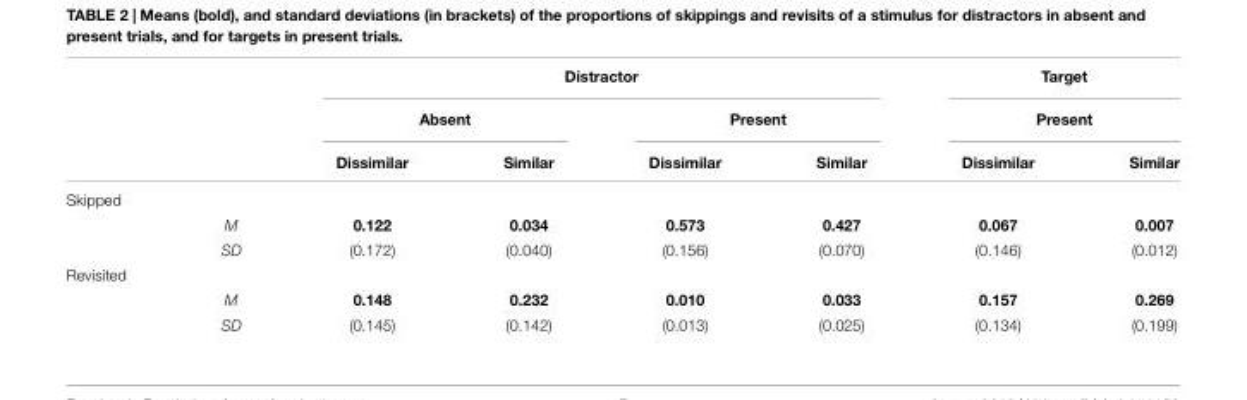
<table><thead><tr><td rowspan="3"></td><td rowspan="3"></td><td colspan="4">Distractor</td><td rowspan="2" colspan="2">Target Present</td></tr><tr><td colspan="2">Absent</td><td colspan="2">Present</td></tr><tr><td>Dissimilar</td><td>Similar</td><td>Dissimilar</td><td>Similar</td><td>Dissimilar</td><td>Similar</td></tr></thead><tbody><tr><td colspan="8">Skipped</td></tr><tr><td></td><td>M</td><td>0.122</td><td>0.034</td><td>0.573</td><td>0.427</td><td>0.067</td><td>0.007</td></tr><tr><td></td><td>SD</td><td>(0.172)</td><td>(0.040)</td><td>(0.156)</td><td>(0.070)</td><td>(0.146)</td><td>(0.012)</td></tr><tr><td colspan="8">Revisited</td></tr><tr><td></td><td>M</td><td>0.148</td><td>0.232</td><td>0.010</td><td>0.033</td><td>0.157</td><td>0.269</td></tr><tr><td></td><td>SD</td><td>(0.145)</td><td>(0.142)</td><td>(0.013)</td><td>(0.025)</td><td>(0.134)</td><td>(0.199)</td></tr></tbody></table>